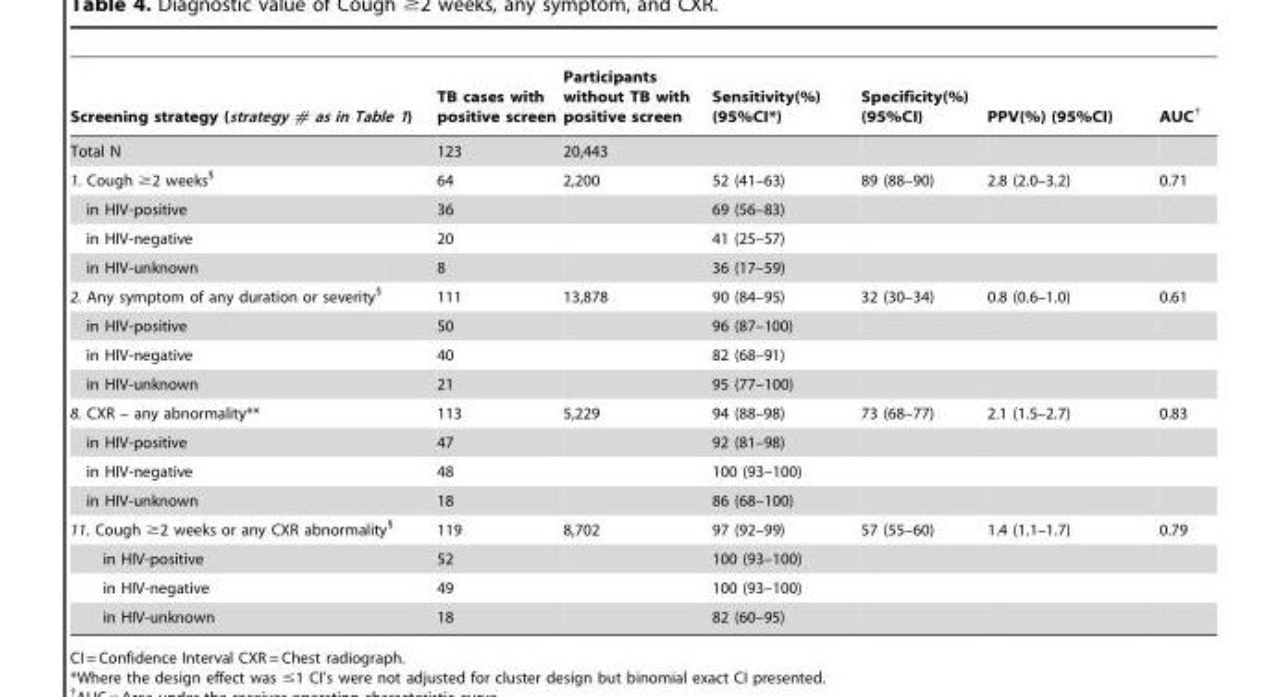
<table><thead><tr><td>Screening strategy (strategy # as in Table 1)</td><td>TB cases with positive screen</td><td>Participants without TB with positive screen</td><td>Sensitivity(%) (95%CI*)</td><td>Specificity(%) (95%CI)</td><td>PPV(%) (95%CI)</td><td>AUC†</td></tr></thead><tbody><tr><td>Total N</td><td>123</td><td>20,443</td><td></td><td></td><td></td><td></td></tr><tr><td>1. Cough ≥2 weeks§</td><td>64</td><td>2,200</td><td>52 (41–63)</td><td>89 (88–90)</td><td>2.8 (2.0–3.2)</td><td>0.71</td></tr><tr><td>in HIV-positive</td><td>36</td><td></td><td>69 (56–83)</td><td></td><td></td><td></td></tr><tr><td>in HIV-negative</td><td>20</td><td></td><td>41 (25–57)</td><td></td><td></td><td></td></tr><tr><td>in HIV-unknown</td><td>8</td><td></td><td>36 (17–59)</td><td></td><td></td><td></td></tr><tr><td>2. Any symptom of any duration or severity§</td><td>111</td><td>13,878</td><td>90 (84–95)</td><td>32 (30–34)</td><td>0.8 (0.6–1.0)</td><td>0.61</td></tr><tr><td>in HIV-positive</td><td>50</td><td></td><td>96 (87–100)</td><td></td><td></td><td></td></tr><tr><td>in HIV-negative</td><td>40</td><td></td><td>82 (68–91)</td><td></td><td></td><td></td></tr><tr><td>in HIV-unknown</td><td>21</td><td></td><td>95 (77–100)</td><td></td><td></td><td></td></tr><tr><td>8. CXR – any abnormality**</td><td>113</td><td>5,229</td><td>94 (88–98)</td><td>73 (68–77)</td><td>2.1 (1.5–2.7)</td><td>0.83</td></tr><tr><td>in HIV-positive</td><td>47</td><td></td><td>92 (81–98)</td><td></td><td></td><td></td></tr><tr><td>in HIV-negative</td><td>48</td><td></td><td>100 (93–100)</td><td></td><td></td><td></td></tr><tr><td>in HIV-unknown</td><td>18</td><td></td><td>86 (68–100)</td><td></td><td></td><td></td></tr><tr><td>11. Cough ≥2 weeks or any CXR abnormality§</td><td>119</td><td>8,702</td><td>97 (92–99)</td><td>57 (55–60)</td><td>1.4 (1.1–1.7)</td><td>0.79</td></tr><tr><td>in HIV-positive</td><td>52</td><td></td><td>100 (93–100)</td><td></td><td></td><td></td></tr><tr><td>in HIV-negative</td><td>49</td><td></td><td>100 (93–100)</td><td></td><td></td><td></td></tr><tr><td>in HIV-unknown</td><td>18</td><td></td><td>82 (60–95)</td><td></td><td></td><td></td></tr></tbody></table>